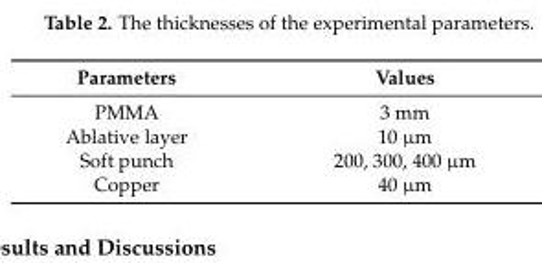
<table><thead><tr><td>Parameters</td><td>Values</td></tr></thead><tbody><tr><td>PMMA</td><td>3 mm</td></tr><tr><td>Ablative layer</td><td>10 µm</td></tr><tr><td>Soft punch</td><td>200, 300, 400 µm</td></tr><tr><td>Copper</td><td>40 µm</td></tr></tbody></table>